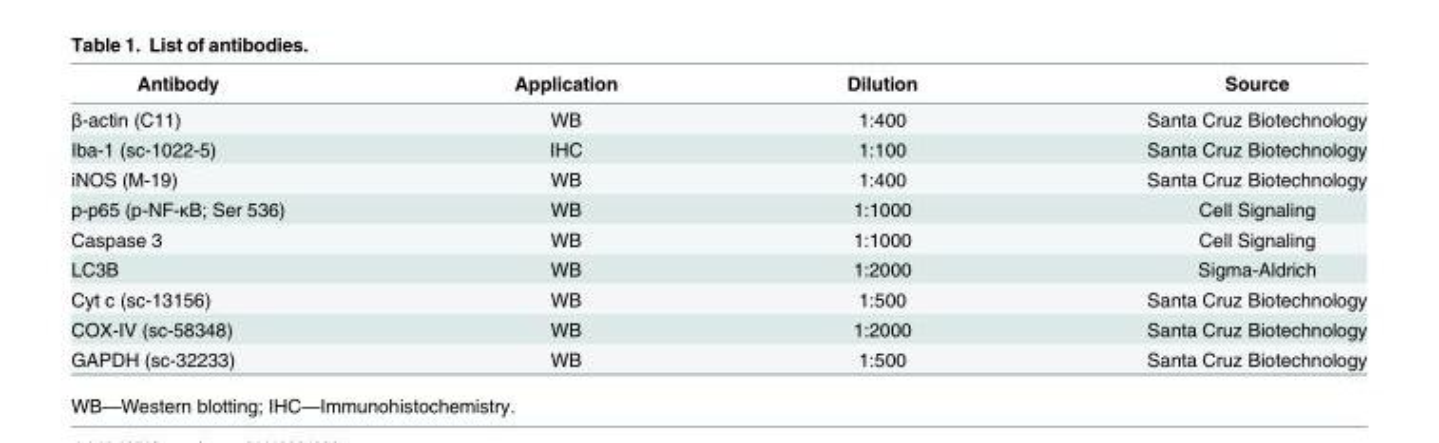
<table><thead><tr><td>Antibody</td><td>Application</td><td>Dilution</td><td>Source</td></tr></thead><tbody><tr><td>β-actin (C11)</td><td>WB</td><td>1:400</td><td>Santa Cruz Biotechnology</td></tr><tr><td>Iba-1 (sc-1022-5)</td><td>IHC</td><td>1:100</td><td>Santa Cruz Biotechnology</td></tr><tr><td>iNOS (M-19)</td><td>WB</td><td>1:400</td><td>Santa Cruz Biotechnology</td></tr><tr><td>p-p65 (p-NF-κB; Ser 536)</td><td>WB</td><td>1:1000</td><td>Cell Signaling</td></tr><tr><td>Caspase 3</td><td>WB</td><td>1:1000</td><td>Cell Signaling</td></tr><tr><td>LC3B</td><td>WB</td><td>1:2000</td><td>Sigma-Aldrich</td></tr><tr><td>Cyt c (sc-13156)</td><td>WB</td><td>1:500</td><td>Santa Cruz Biotechnology</td></tr><tr><td>COX-IV (sc-58348)</td><td>WB</td><td>1:2000</td><td>Santa Cruz Biotechnology</td></tr><tr><td>GAPDH (sc-32233)</td><td>WB</td><td>1:500</td><td>Santa Cruz Biotechnology</td></tr></tbody></table>